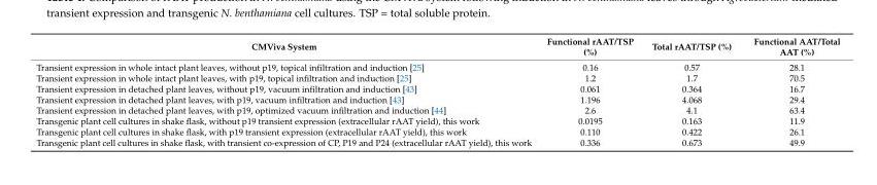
<table><thead><tr><td>CMViva System</td><td>Functional rAAT/TSP (%)</td><td>Total rAAT/TSP (%)</td><td>Functional AAT/Total AAT (%)</td></tr></thead><tbody><tr><td>Transient expression in whole intact plant leaves, without p19, topical infiltration and induction [25]</td><td>0.16</td><td>0.57</td><td>28.1</td></tr><tr><td>Transient expression in whole intact plant leaves, with p19, topical infiltration and induction [25]</td><td>1.2</td><td>1.7</td><td>70.5</td></tr><tr><td>Transient expression in detached plant leaves, without p19, vacuum infiltration and induction [43]</td><td>0.061</td><td>0.364</td><td>16.7</td></tr><tr><td>Transient expression in detached plant leaves, with p19, vacuum infiltration and induction [43]</td><td>1.196</td><td>4.068</td><td>29.4</td></tr><tr><td>Transient expression in detached plant leaves, with p19, optimized vacuum infiltration and induction [44]</td><td>2.6</td><td>4.1</td><td>63.4</td></tr><tr><td>Transgenic plant cell cultures in shake flask, without p19 transient expression (extracellular rAAT yield), this work</td><td>0.0195</td><td>0.163</td><td>11.9</td></tr><tr><td>Transgenic plant cell cultures in shake flask, with p19 transient expression (extracellular rAAT yield), this work</td><td>0.110</td><td>0.422</td><td>26.1</td></tr><tr><td>Transgenic plant cell cultures in shake flask, with transient co-expression of CP, P19 and P24 (extracellular rAAT yield), this work</td><td>0.336</td><td>0.673</td><td>49.9</td></tr></tbody></table>